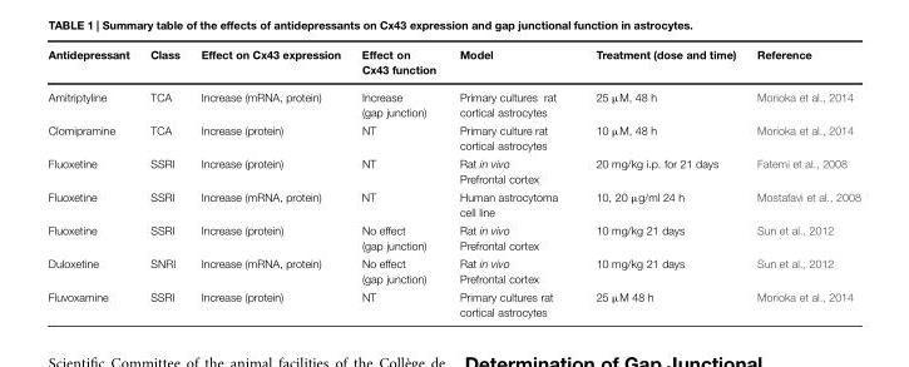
<table><thead><tr><td>Antidepressant</td><td>Class</td><td>Effect on Cx43 expression</td><td>Effect on Cx43 function</td><td>Model</td><td>Treatment (dose and time)</td><td>Reference</td></tr></thead><tbody><tr><td>Amitriptyline</td><td>TCA</td><td>Increase (mRNA, protein)</td><td>Increase (gap junction)</td><td>Primary cultures rat cortical astrocytes</td><td>25 μM, 48 h</td><td>Morioka et al., 2014</td></tr><tr><td>Clomipramine</td><td>TCA</td><td>Increase (protein)</td><td>NT</td><td>Primary culture rat cortical astrocytes</td><td>10 μM, 48 h</td><td>Morioka et al., 2014</td></tr><tr><td>Fluoxetine</td><td>SSRI</td><td>Increase (protein)</td><td>NT</td><td>Rat in vivo Prefrontal cortex</td><td>20 mg/kg i.p. for 21 days</td><td>Fatemi et al., 2008</td></tr><tr><td>Fluoxetine</td><td>SSRI</td><td>Increase (mRNA, protein)</td><td>NT</td><td>Human astrocytoma cell line</td><td>10, 20 μg/ml 24 h</td><td>Mostafavi et al., 2008</td></tr><tr><td>Fluoxetine</td><td>SSRI</td><td>Increase (protein)</td><td>No effect (gap junction)</td><td>Rat in vivo Prefrontal cortex</td><td>10 mg/kg 21 days</td><td>Sun et al., 2012</td></tr><tr><td>Duloxetine</td><td>SNRI</td><td>Increase (mRNA, protein)</td><td>No effect (gap junction)</td><td>Rat in vivo Prefrontal cortex</td><td>10 mg/kg 21 days</td><td>Sun et al., 2012</td></tr><tr><td>Fluvoxamine</td><td>SSRI</td><td>Increase (protein)</td><td>NT</td><td>Primary cultures rat cortical astrocytes</td><td>25 μM 48 h</td><td>Morioka et al., 2014</td></tr></tbody></table>